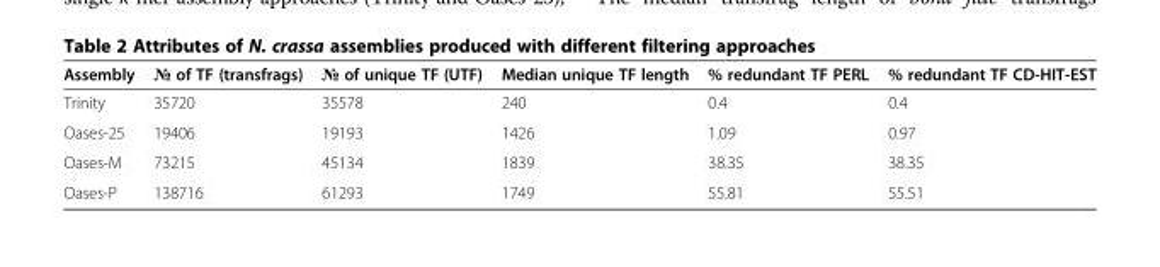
<table><thead><tr><td>Assembly</td><td>№ of TF (transfrags)</td><td>№ of unique TF (UTF)</td><td>Median unique TF length</td><td>% redundant TF PERL</td><td>% redundant TF CD-HIT-EST</td></tr></thead><tbody><tr><td>Trinity</td><td>35720</td><td>35578</td><td>240</td><td>0.4</td><td>0.4</td></tr><tr><td>Oases-25</td><td>19406</td><td>19193</td><td>1426</td><td>1.09</td><td>0.97</td></tr><tr><td>Oases-M</td><td>73215</td><td>45134</td><td>1839</td><td>38.35</td><td>38.35</td></tr><tr><td>Oases-P</td><td>138716</td><td>61293</td><td>1749</td><td>55.81</td><td>55.51</td></tr></tbody></table>